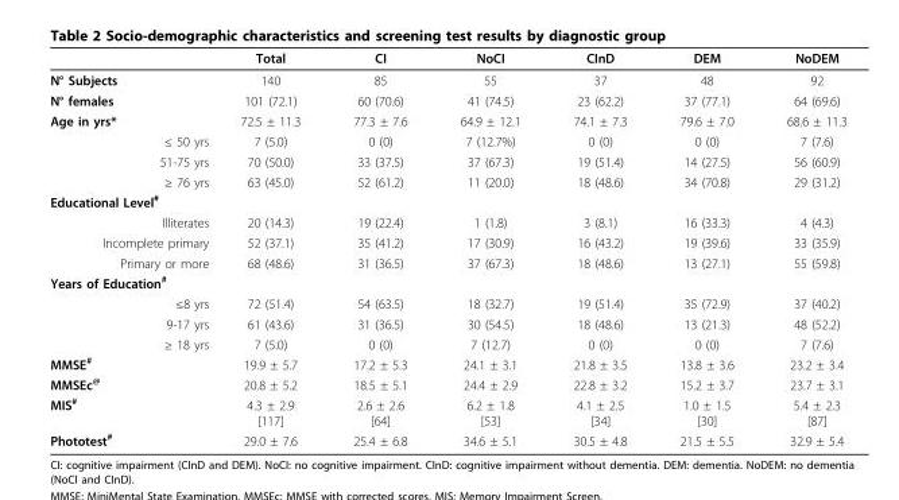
<table><thead><tr><td></td><td>Total</td><td>CI</td><td>NoCI</td><td>CInD</td><td>DEM</td><td>NoDEM</td></tr></thead><tbody><tr><td>N° Subjects</td><td>140</td><td>85</td><td>55</td><td>37</td><td>48</td><td>92</td></tr><tr><td>N° females</td><td>101 (72.1)</td><td>60 (70.6)</td><td>41 (74.5)</td><td>23 (62.2)</td><td>37 (77.1)</td><td>64 (69.6)</td></tr><tr><td>Age in yrs*</td><td>72.5 ± 11.3</td><td>77.3 ± 7.6</td><td>64.9 ± 12.1</td><td>74.1 ± 7.3</td><td>79.6 ± 7.0</td><td>68.6 ± 11.3</td></tr><tr><td>≤ 50 yrs</td><td>7 (5.0)</td><td>0 (0)</td><td>7 (12.7%)</td><td>0 (0)</td><td>0 (0)</td><td>7 (7.6)</td></tr><tr><td>51-75 yrs</td><td>70 (50.0)</td><td>33 (37.5)</td><td>37 (67.3)</td><td>19 (51.4)</td><td>14 (27.5)</td><td>56 (60.9)</td></tr><tr><td>≥ 76 yrs</td><td>63 (45.0)</td><td>52 (61.2)</td><td>11 (20.0)</td><td>18 (48.6)</td><td>34 (70.8)</td><td>29 (31.2)</td></tr><tr><td colspan="7">Educational Level<sup>#</sup></td></tr><tr><td>Illiterates</td><td>20 (14.3)</td><td>19 (22.4)</td><td>1 (1.8)</td><td>3 (8.1)</td><td>16 (33.3)</td><td>4 (4.3)</td></tr><tr><td>Incomplete primary</td><td>52 (37.1)</td><td>35 (41.2)</td><td>17 (30.9)</td><td>16 (43.2)</td><td>19 (39.6)</td><td>33 (35.9)</td></tr><tr><td>Primary or more</td><td>68 (48.6)</td><td>31 (36.5)</td><td>37 (67.3)</td><td>18 (48.6)</td><td>13 (27.1)</td><td>55 (59.8)</td></tr><tr><td colspan="7">Years of Education<sup>#</sup></td></tr><tr><td>≤8 yrs</td><td>72 (51.4)</td><td>54 (63.5)</td><td>18 (32.7)</td><td>19 (51.4)</td><td>35 (72.9)</td><td>37 (40.2)</td></tr><tr><td>9-17 yrs</td><td>61 (43.6)</td><td>31 (36.5)</td><td>30 (54.5)</td><td>18 (48.6)</td><td>13 (21.3)</td><td>48 (52.2)</td></tr><tr><td>≥ 18 yrs</td><td>7 (5.0)</td><td>0 (0)</td><td>7 (12.7)</td><td>0 (0)</td><td>0 (0)</td><td>7 (7.6)</td></tr><tr><td>MMSE<sup>#</sup></td><td>19.9 ± 5.7</td><td>17.2 ± 5.3</td><td>24.1 ± 3.1</td><td>21.8 ± 3.5</td><td>13.8 ± 3.6</td><td>23.2 ± 3.4</td></tr><tr><td>MMSEc<sup>@</sup></td><td>20.8 ± 5.2</td><td>18.5 ± 5.1</td><td>24.4 ± 2.9</td><td>22.8 ± 3.2</td><td>15.2 ± 3.7</td><td>23.7 ± 3.1</td></tr><tr><td>MIS<sup>#</sup></td><td>4.3 ± 2.9 [117]</td><td>2.6 ± 2.6 [64]</td><td>6.2 ± 1.8 [53]</td><td>4.1 ± 2.5 [34]</td><td>1.0 ± 1.5 [30]</td><td>5.4 ± 2.3 [87]</td></tr><tr><td>Phototest<sup>#</sup></td><td>29.0 ± 7.6</td><td>25.4 ± 6.8</td><td>34.6 ± 5.1</td><td>30.5 ± 4.8</td><td>21.5 ± 5.5</td><td>32.9 ± 5.4</td></tr></tbody></table>